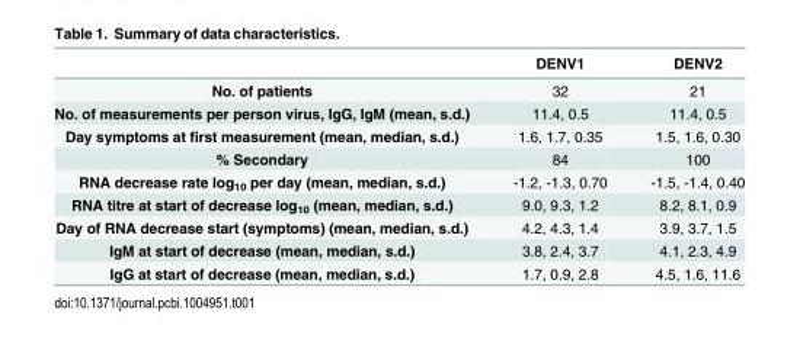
<table><thead><tr><td></td><td>DENV1</td><td>DENV2</td></tr></thead><tbody><tr><td>No. of patients</td><td>32</td><td>21</td></tr><tr><td>No. of measurements per person virus, IgG, IgM (mean, s.d.)</td><td>11.4, 0.5</td><td>11.4, 0.5</td></tr><tr><td>Day symptoms at first measurement (mean, median, s.d.)</td><td>1.6, 1.7, 0.35</td><td>1.5, 1.6, 0.30</td></tr><tr><td>% Secondary</td><td>84</td><td>100</td></tr><tr><td>RNA decrease rate log<sub>10</sub> per day (mean, median, s.d.)</td><td>-1.2, -1.3, 0.70</td><td>-1.5, -1.4, 0.40</td></tr><tr><td>RNA titre at start of decrease log<sub>10</sub> (mean, median, s.d.)</td><td>9.0, 9.3, 1.2</td><td>8.2, 8.1, 0.9</td></tr><tr><td>Day of RNA decrease start (symptoms) (mean, median, s.d.)</td><td>4.2, 4.3, 1.4</td><td>3.9, 3.7, 1.5</td></tr><tr><td>IgM at start of decrease (mean, median, s.d.)</td><td>3.8, 2.4, 3.7</td><td>4.1, 2.3, 4.9</td></tr><tr><td>IgG at start of decrease (mean, median, s.d.)</td><td>1.7, 0.9, 2.8</td><td>4.5, 1.6, 11.6</td></tr></tbody></table>